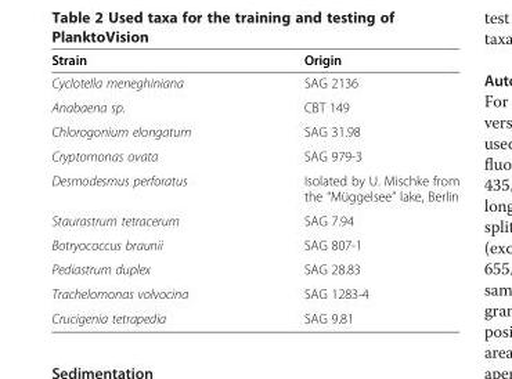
<table><thead><tr><td>Strain</td><td>Origin</td></tr></thead><tbody><tr><td>Cyclotella meneghiniana</td><td>SAG 2136</td></tr><tr><td>Anabaena sp.</td><td>CBT 149</td></tr><tr><td>Chlorogonium elongatum</td><td>SAG 31.98</td></tr><tr><td>Cryptomonas ovata</td><td>SAG 979-3</td></tr><tr><td>Desmodesmus perforatus</td><td>Isolated by U. Mischke from the “Müggelsee” lake, Berlin</td></tr><tr><td>Staurastrum tetracerum</td><td>SAG 7.94</td></tr><tr><td>Botryococcus braunii</td><td>SAG 807-1</td></tr><tr><td>Pediastrum duplex</td><td>SAG 28.83</td></tr><tr><td>Trachelomonas volvocina</td><td>SAG 1283-4</td></tr><tr><td>Crucigenia tetrapedia</td><td>SAG 9.81</td></tr></tbody></table>